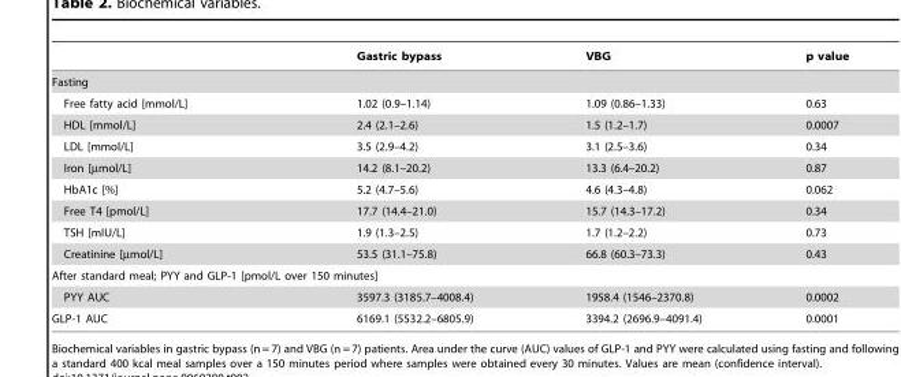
<table><thead><tr><td></td><td>Gastric bypass</td><td>VBG</td><td>p value</td></tr></thead><tbody><tr><td colspan="4">Fasting</td></tr><tr><td>Free fatty acid [mmol/L]</td><td>1.02 (0.9–1.14)</td><td>1.09 (0.86–1.33)</td><td>0.63</td></tr><tr><td>HDL [mmol/L]</td><td>2.4 (2.1–2.6)</td><td>1.5 (1.2–1.7)</td><td>0.0007</td></tr><tr><td>LDL [mmol/L]</td><td>3.5 (2.9–4.2)</td><td>3.1 (2.5–3.6)</td><td>0.34</td></tr><tr><td>Iron [µmol/L]</td><td>14.2 (8.1–20.2)</td><td>13.3 (6.4–20.2)</td><td>0.87</td></tr><tr><td>HbA1c [%]</td><td>5.2 (4.7–5.6)</td><td>4.6 (4.3–4.8)</td><td>0.062</td></tr><tr><td>Free T4 [pmol/L]</td><td>17.7 (14.4–21.0)</td><td>15.7 (14.3–17.2)</td><td>0.34</td></tr><tr><td>TSH [mIU/L]</td><td>1.9 (1.3–2.5)</td><td>1.7 (1.2–2.2)</td><td>0.73</td></tr><tr><td>Creatinine [µmol/L]</td><td>53.5 (31.1–75.8)</td><td>66.8 (60.3–73.3)</td><td>0.43</td></tr><tr><td colspan="4">After standard meal; PYY and GLP-1 [pmol/L over 150 minutes]</td></tr><tr><td>PYY AUC</td><td>3597.3 (3185.7–4008.4)</td><td>1958.4 (1546–2370.8)</td><td>0.0002</td></tr><tr><td>GLP-1 AUC</td><td>6169.1 (5532.2–6805.9)</td><td>3394.2 (2696.9–4091.4)</td><td>0.0001</td></tr></tbody></table>